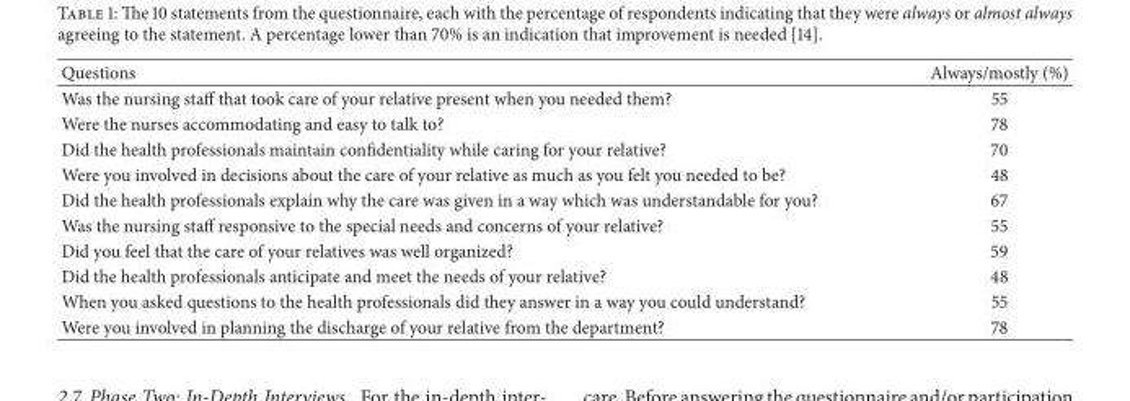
<table><thead><tr><td>Questions</td><td>Always/mostly (%)</td></tr></thead><tbody><tr><td>Was the nursing staff that took care of your relative present when you needed them?</td><td>55</td></tr><tr><td>Were the nurses accommodating and easy to talk to?</td><td>78</td></tr><tr><td>Did the health professionals maintain confidentiality while caring for your relative?</td><td>70</td></tr><tr><td>Were you involved in decisions about the care of your relative as much as you felt you needed to be?</td><td>48</td></tr><tr><td>Did the health professionals explain why the care was given in a way which was understandable for you?</td><td>67</td></tr><tr><td>Was the nursing staff responsive to the special needs and concerns of your relative?</td><td>55</td></tr><tr><td>Did you feel that the care of your relatives was well organized?</td><td>59</td></tr><tr><td>Did the health professionals anticipate and meet the needs of your relative?</td><td>48</td></tr><tr><td>When you asked questions to the health professionals did they answer in a way you could understand?</td><td>55</td></tr><tr><td>Were you involved in planning the discharge of your relative from the department?</td><td>78</td></tr></tbody></table>